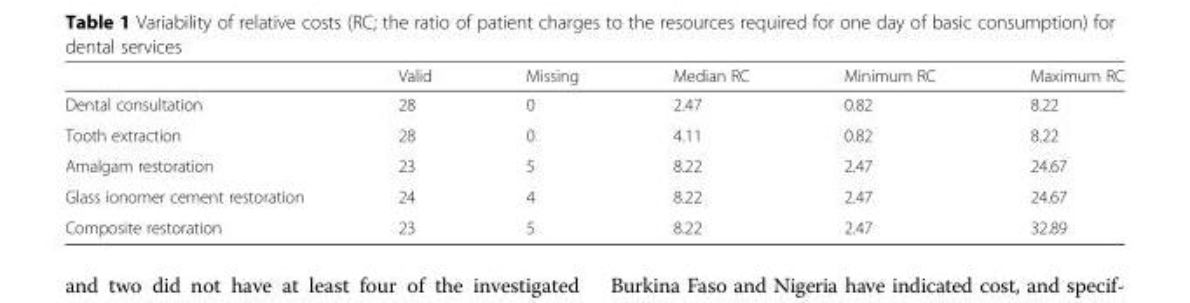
<table><thead><tr><td></td><td>Valid</td><td>Missing</td><td>Median RC</td><td>Minimum RC</td><td>Maximum RC</td></tr></thead><tbody><tr><td>Dental consultation</td><td>28</td><td>0</td><td>2.47</td><td>0.82</td><td>8.22</td></tr><tr><td>Tooth extraction</td><td>28</td><td>0</td><td>4.11</td><td>0.82</td><td>8.22</td></tr><tr><td>Amalgam restoration</td><td>23</td><td>5</td><td>8.22</td><td>2.47</td><td>24.67</td></tr><tr><td>Glass ionomer cement restoration</td><td>24</td><td>4</td><td>8.22</td><td>2.47</td><td>24.67</td></tr><tr><td>Composite restoration</td><td>23</td><td>5</td><td>8.22</td><td>2.47</td><td>32.89</td></tr></tbody></table>